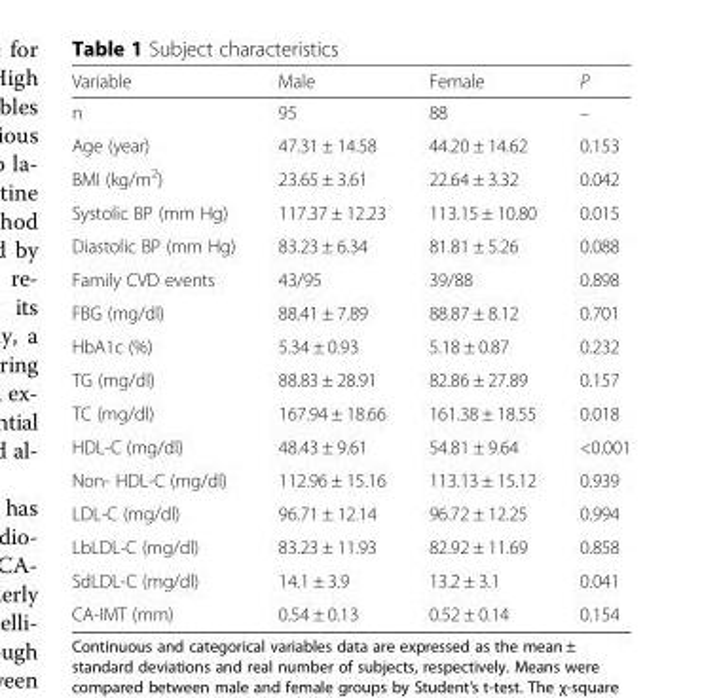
<table><thead><tr><td>Variable</td><td>Male</td><td>Female</td><td>P</td></tr></thead><tbody><tr><td>n</td><td>95</td><td>88</td><td>–</td></tr><tr><td>Age (year)</td><td>47.31 ± 14.58</td><td>44.20 ± 14.62</td><td>0.153</td></tr><tr><td>BMI (kg/m<sup>2</sup>)</td><td>23.65 ± 3.61</td><td>22.64 ± 3.32</td><td>0.042</td></tr><tr><td>Systolic BP (mm Hg)</td><td>117.37 ± 12.23</td><td>113.15 ± 10.80</td><td>0.015</td></tr><tr><td>Diastolic BP (mm Hg)</td><td>83.23 ± 6.34</td><td>81.81 ± 5.26</td><td>0.088</td></tr><tr><td>Family CVD events</td><td>43/95</td><td>39/88</td><td>0.898</td></tr><tr><td>FBG (mg/dl)</td><td>88.41 ± 7.89</td><td>88.87 ± 8.12</td><td>0.701</td></tr><tr><td>HbA1c (%)</td><td>5.34 ± 0.93</td><td>5.18 ± 0.87</td><td>0.232</td></tr><tr><td>TG (mg/dl)</td><td>88.83 ± 28.91</td><td>82.86 ± 27.89</td><td>0.157</td></tr><tr><td>TC (mg/dl)</td><td>167.94 ± 18.66</td><td>161.38 ± 18.55</td><td>0.018</td></tr><tr><td>HDL-C (mg/dl)</td><td>48.43 ± 9.61</td><td>54.81 ± 9.64</td><td>&lt;0.001</td></tr><tr><td>Non- HDL-C (mg/dl)</td><td>112.96 ± 15.16</td><td>113.13 ± 15.12</td><td>0.939</td></tr><tr><td>LDL-C (mg/dl)</td><td>96.71 ± 12.14</td><td>96.72 ± 12.25</td><td>0.994</td></tr><tr><td>LbLDL-C (mg/dl)</td><td>83.23 ± 11.93</td><td>82.92 ± 11.69</td><td>0.858</td></tr><tr><td>SdLDL-C (mg/dl)</td><td>14.1 ± 3.9</td><td>13.2 ± 3.1</td><td>0.041</td></tr><tr><td>CA-IMT (mm)</td><td>0.54 ± 0.13</td><td>0.52 ± 0.14</td><td>0.154</td></tr></tbody></table>